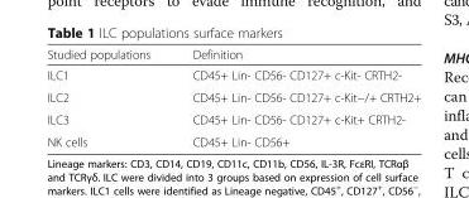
<table><thead><tr><td>Studied populations</td><td>Definition</td></tr></thead><tbody><tr><td>ILC1</td><td>CD45+ Lin- CD56- CD127+ c-Kit- CRTH2-</td></tr><tr><td>ILC2</td><td>CD45+ Lin- CD56- CD127+ c-Kit−/+ CRTH2+</td></tr><tr><td>ILC3</td><td>CD45+ Lin- CD56- CD127+ c-Kit+ CRTH2-</td></tr><tr><td>NK cells</td><td>CD45+ Lin- CD56+</td></tr></tbody></table>